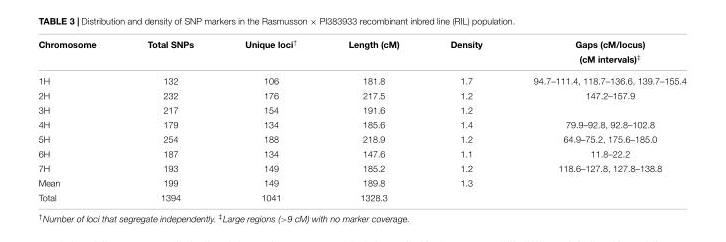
<table><thead><tr><td rowspan="2">Chromosome</td><td rowspan="2">Total SNPs</td><td rowspan="2">Unique loci<sup>†</sup></td><td rowspan="2">Length (cM)</td><td rowspan="2">Density</td><td rowspan="2">Gaps (cM/locus) (cM intervals)<sup>‡</sup></td></tr><tr></tr></thead><tbody><tr><td>1H</td><td>132</td><td>106</td><td>181.8</td><td>1.7</td><td>94.7–111.4, 118.7–136.6, 139.7–155.4</td></tr><tr><td>2H</td><td>232</td><td>176</td><td>217.5</td><td>1.2</td><td>147.2–157.9</td></tr><tr><td>3H</td><td>217</td><td>154</td><td>191.6</td><td>1.2</td><td></td></tr><tr><td>4H</td><td>179</td><td>134</td><td>185.6</td><td>1.4</td><td>79.9–92.8, 92.8–102.8</td></tr><tr><td>5H</td><td>254</td><td>188</td><td>218.9</td><td>1.2</td><td>64.9–75.2, 175.6–185.0</td></tr><tr><td>6H</td><td>187</td><td>134</td><td>147.6</td><td>1.1</td><td>11.8–22.2</td></tr><tr><td>7H</td><td>193</td><td>149</td><td>185.2</td><td>1.2</td><td>118.6–127.8, 127.8–138.8</td></tr><tr><td>Mean</td><td>199</td><td>149</td><td>189.8</td><td>1.3</td><td></td></tr><tr><td>Total</td><td>1394</td><td>1041</td><td>1328.3</td><td></td><td></td></tr></tbody></table>